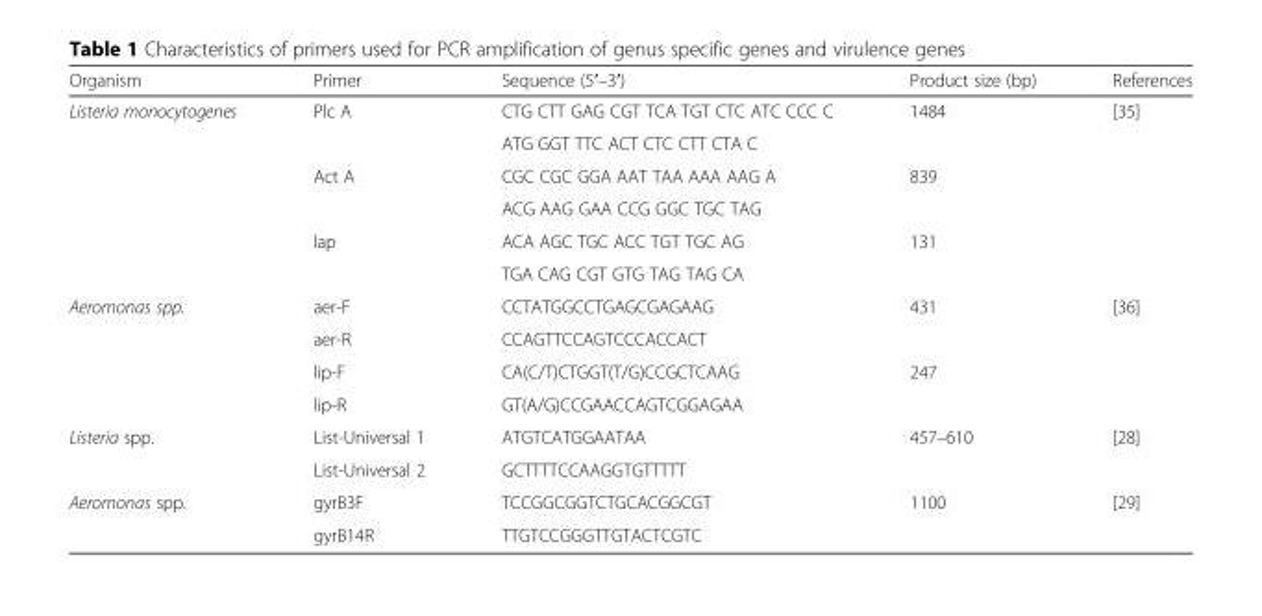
<table><thead><tr><td>Organism</td><td>Primer</td><td>Sequence (5′–3′)</td><td>Product size (bp)</td><td>References</td></tr></thead><tbody><tr><td rowspan="6">Listeria monocytogenes</td><td>Plc A</td><td>CTG CTT GAG CGT TCA TGT CTC ATC CCC C</td><td rowspan="2">1484</td><td rowspan="6">[35]</td></tr><tr><td></td><td>ATG GGT TTC ACT CTC CTT CTA C</td></tr><tr><td>Act A</td><td>CGC CGC GGA AAT TAA AAA AAG A</td><td rowspan="2">839</td></tr><tr><td></td><td>ACG AAG GAA CCG GGC TGC TAG</td></tr><tr><td>Iap</td><td>ACA AGC TGC ACC TGT TGC AG</td><td rowspan="2">131</td></tr><tr><td></td><td>TGA CAG CGT GTG TAG TAG CA</td></tr><tr><td rowspan="4">Aeromonas spp.</td><td>aer-F</td><td>CCTATGGCCTGAGCGAGAAG</td><td rowspan="2">431</td><td rowspan="2">[36]</td></tr><tr><td>aer-R</td><td>CCAGTTCCAGTCCCACCACT</td></tr><tr><td>lip-F</td><td>CA(C/T)CTGGT(T/G)CCGCTCAAG</td><td>247</td><td></td></tr><tr><td>lip-R</td><td>GT(A/G)CCGAACCAGTCGGAGAA</td><td></td><td></td></tr><tr><td rowspan="2">Listeria spp.</td><td>List-Universal 1</td><td>ATGTCATGGAATAA</td><td>457–610</td><td>[28]</td></tr><tr><td>List-Universal 2</td><td>GCTTTTCCAAGGTGTTTTT</td><td></td><td></td></tr><tr><td rowspan="2">Aeromonas spp.</td><td>gyrB3F</td><td>TCCGGCGGTCTGCACGGCGT</td><td rowspan="2">1100</td><td rowspan="2">[29]</td></tr><tr><td>gyrB14R</td><td>TTGTCCGGGTTGTACTCGTC</td></tr></tbody></table>